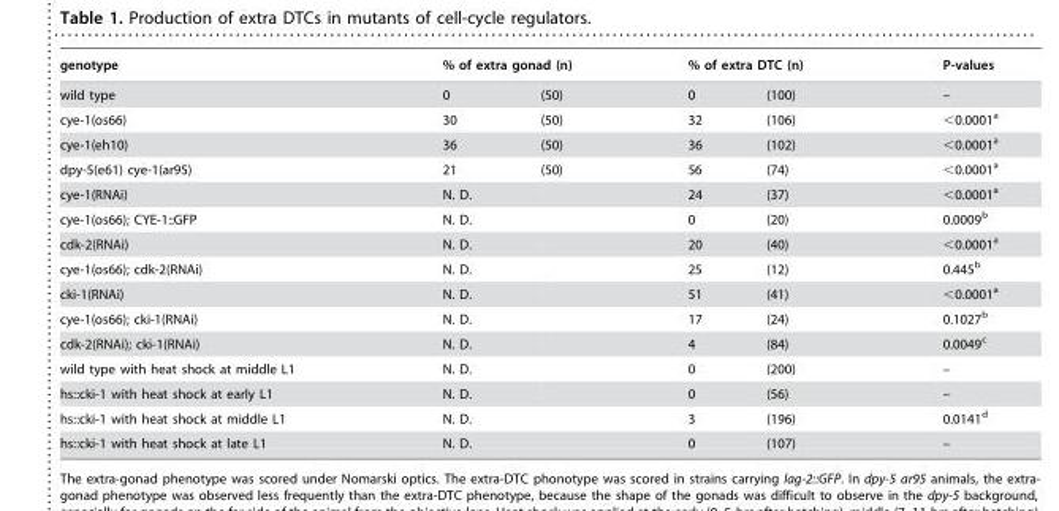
<table><thead><tr><td rowspan="2">genotype wild type</td><td colspan="2">% of extra gonad (n)</td><td colspan="2">% of extra DTC (n)</td><td rowspan="2">P-values –</td></tr><tr><td>0</td><td>(50)</td><td>0</td><td>(100)</td></tr></thead><tbody><tr><td>cye-1(os66)</td><td>30</td><td>(50)</td><td>32</td><td>(106)</td><td>&lt;0.0001<sup>a</sup></td></tr><tr><td>cye-1(eh10)</td><td>36</td><td>(50)</td><td>36</td><td>(102)</td><td>&lt;0.0001<sup>a</sup></td></tr><tr><td>dpy-5(e61) cye-1(ar95)</td><td>21</td><td>(50)</td><td>56</td><td>(74)</td><td>&lt;0.0001<sup>a</sup></td></tr><tr><td>cye-1(RNAi)</td><td>N. D.</td><td></td><td>24</td><td>(37)</td><td>&lt;0.0001<sup>a</sup></td></tr><tr><td>cye-1(os66); CYE-1::GFP</td><td>N. D.</td><td></td><td>0</td><td>(20)</td><td>0.0009<sup>b</sup></td></tr><tr><td>cdk-2(RNAi)</td><td>N. D.</td><td></td><td>20</td><td>(40)</td><td>&lt;0.0001<sup>a</sup></td></tr><tr><td>cye-1(os66); cdk-2(RNAi)</td><td>N. D.</td><td></td><td>25</td><td>(12)</td><td>0.445<sup>b</sup></td></tr><tr><td>cki-1(RNAi)</td><td>N. D.</td><td></td><td>51</td><td>(41)</td><td>&lt;0.0001<sup>a</sup></td></tr><tr><td>cye-1(os66); cki-1(RNAi)</td><td>N. D.</td><td></td><td>17</td><td>(24)</td><td>0.1027<sup>b</sup></td></tr><tr><td>cdk-2(RNAi); cki-1(RNAi)</td><td>N. D.</td><td></td><td>4</td><td>(84)</td><td>0.0049<sup>c</sup></td></tr><tr><td>wild type with heat shock at middle L1</td><td>N. D.</td><td></td><td>0</td><td>(200)</td><td>–</td></tr><tr><td>hs::cki-1 with heat shock at early L1</td><td>N. D.</td><td></td><td>0</td><td>(56)</td><td>–</td></tr><tr><td>hs::cki-1 with heat shock at middle L1</td><td>N. D.</td><td></td><td>3</td><td>(196)</td><td>0.0141<sup>d</sup></td></tr><tr><td>hs::cki-1 with heat shock at late L1</td><td>N. D.</td><td></td><td>0</td><td>(107)</td><td>–</td></tr></tbody></table>